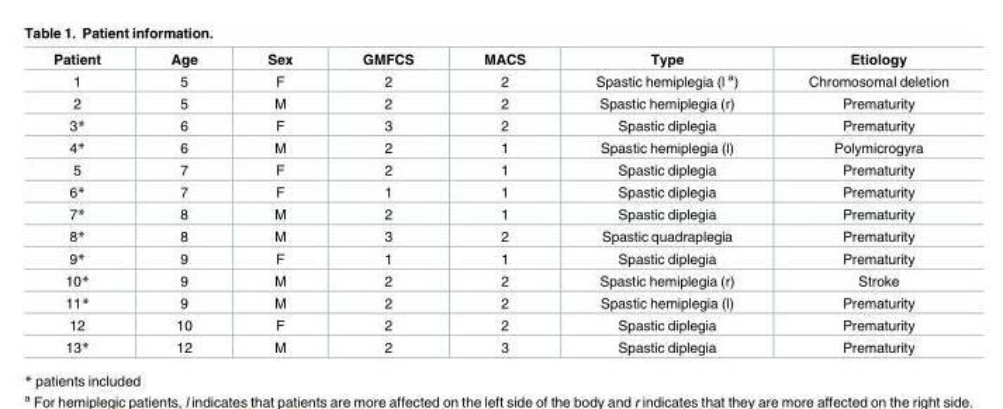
<table><thead><tr><td>Patient</td><td>Age</td><td>Sex</td><td>GMFCS</td><td>MACS</td><td>Type</td><td>Etiology</td></tr></thead><tbody><tr><td>1</td><td>5</td><td>F</td><td>2</td><td>2</td><td>Spastic hemiplegia (l <sup>a</sup>)</td><td>Chromosomal deletion</td></tr><tr><td>2</td><td>5</td><td>M</td><td>2</td><td>2</td><td>Spastic hemiplegia (r)</td><td>Prematurity</td></tr><tr><td>3*</td><td>6</td><td>F</td><td>3</td><td>2</td><td>Spastic diplegia</td><td>Prematurity</td></tr><tr><td>4*</td><td>6</td><td>M</td><td>2</td><td>1</td><td>Spastic hemiplegia (l)</td><td>Polymicrogyra</td></tr><tr><td>5</td><td>7</td><td>F</td><td>2</td><td>1</td><td>Spastic diplegia</td><td>Prematurity</td></tr><tr><td>6*</td><td>7</td><td>F</td><td>1</td><td>1</td><td>Spastic diplegia</td><td>Prematurity</td></tr><tr><td>7*</td><td>8</td><td>M</td><td>2</td><td>1</td><td>Spastic diplegia</td><td>Prematurity</td></tr><tr><td>8*</td><td>8</td><td>M</td><td>3</td><td>2</td><td>Spastic quadraplegia</td><td>Prematurity</td></tr><tr><td>9*</td><td>9</td><td>F</td><td>1</td><td>1</td><td>Spastic diplegia</td><td>Prematurity</td></tr><tr><td>10*</td><td>9</td><td>M</td><td>2</td><td>2</td><td>Spastic hemiplegia (r)</td><td>Stroke</td></tr><tr><td>11*</td><td>9</td><td>M</td><td>2</td><td>2</td><td>Spastic hemiplegia (l)</td><td>Prematurity</td></tr><tr><td>12</td><td>10</td><td>F</td><td>2</td><td>2</td><td>Spastic diplegia</td><td>Prematurity</td></tr><tr><td>13*</td><td>12</td><td>M</td><td>2</td><td>3</td><td>Spastic diplegia</td><td>Prematurity</td></tr></tbody></table>